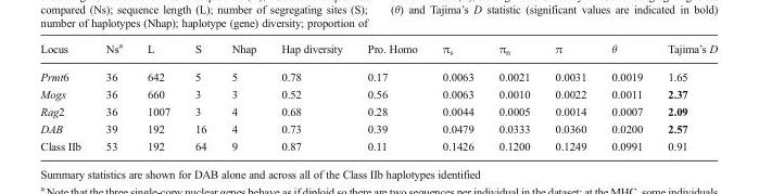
<table><thead><tr><td>Locus</td><td>Ns<sup>a</sup></td><td>L</td><td>S</td><td>Nhap</td><td>Hap diversity</td><td>Pro. Homo</td><td>π<sub>s</sub></td><td>π<sub>n</sub></td><td>π</td><td>θ</td><td>Tajima’s D</td></tr></thead><tbody><tr><td>Prmt6</td><td>36</td><td>642</td><td>5</td><td>5</td><td>0.78</td><td>0.17</td><td>0.0063</td><td>0.0021</td><td>0.0031</td><td>0.0019</td><td>1.65</td></tr><tr><td>Mogs</td><td>36</td><td>660</td><td>3</td><td>3</td><td>0.52</td><td>0.56</td><td>0.0063</td><td>0.0010</td><td>0.0022</td><td>0.0011</td><td>2.37</td></tr><tr><td>Rag2</td><td>36</td><td>1007</td><td>3</td><td>4</td><td>0.68</td><td>0.28</td><td>0.0044</td><td>0.0005</td><td>0.0014</td><td>0.0007</td><td>2.09</td></tr><tr><td>DAB</td><td>39</td><td>192</td><td>16</td><td>4</td><td>0.73</td><td>0.39</td><td>0.0479</td><td>0.0333</td><td>0.0360</td><td>0.0200</td><td>2.57</td></tr><tr><td>Class IIb</td><td>53</td><td>192</td><td>64</td><td>9</td><td>0.87</td><td>0.11</td><td>0.1426</td><td>0.1200</td><td>0.1249</td><td>0.0991</td><td>0.91</td></tr></tbody></table>